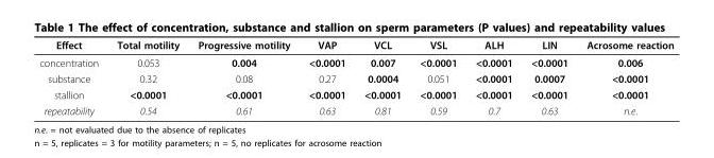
<table><thead><tr><td>Effect</td><td>Total motility</td><td>Progressive motility</td><td>VAP</td><td>VCL</td><td>VSL</td><td>ALH</td><td>LIN</td><td>Acrosome reaction</td></tr></thead><tbody><tr><td>concentration</td><td>0.053</td><td>0.004</td><td>&lt;0.0001</td><td>0.007</td><td>&lt;0.0001</td><td>&lt;0.0001</td><td>&lt;0.0001</td><td>0.006</td></tr><tr><td>substance</td><td>0.32</td><td>0.08</td><td>0.27</td><td>0.0004</td><td>0.051</td><td>&lt;0.0001</td><td>0.0007</td><td>&lt;0.0001</td></tr><tr><td>stallion</td><td>&lt;0.0001</td><td>&lt;0.0001</td><td>&lt;0.0001</td><td>&lt;0.0001</td><td>&lt;0.0001</td><td>&lt;0.0001</td><td>&lt;0.0001</td><td>&lt;0.0001</td></tr><tr><td>repeatability</td><td>0.54</td><td>0.61</td><td>0.63</td><td>0.81</td><td>0.59</td><td>0.7</td><td>0.63</td><td>n.e.</td></tr></tbody></table>